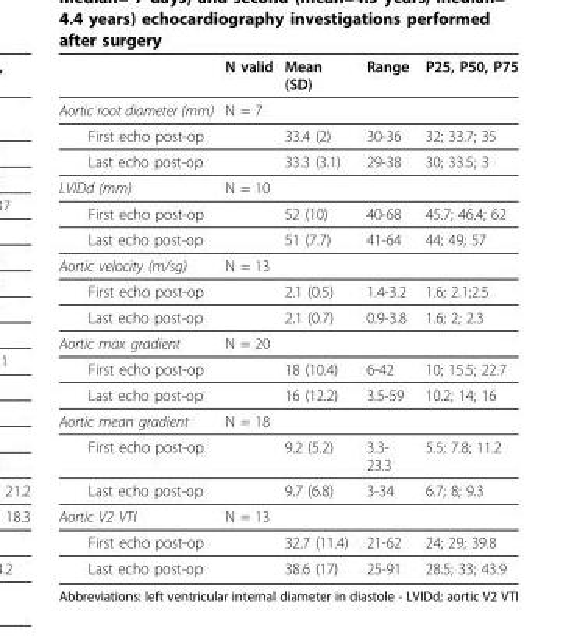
<table><thead><tr><td></td><td>N valid</td><td>Mean (SD)</td><td>Range</td><td>P25, P50, P75</td></tr></thead><tbody><tr><td>Aortic root diameter (mm)</td><td>N = 7</td><td></td><td></td><td></td></tr><tr><td>First echo post-op</td><td></td><td>33.4 (2)</td><td>30-36</td><td>32; 33.7; 35</td></tr><tr><td>Last echo post-op</td><td></td><td>33.3 (3.1)</td><td>29-38</td><td>30; 33.5; 3</td></tr><tr><td>LVIDd (mm)</td><td>N = 10</td><td></td><td></td><td></td></tr><tr><td>First echo post-op</td><td></td><td>52 (10)</td><td>40-68</td><td>45.7; 46.4; 62</td></tr><tr><td>Last echo post-op</td><td></td><td>51 (7.7)</td><td>41-64</td><td>44; 49; 57</td></tr><tr><td>Aortic velocity (m/sg)</td><td>N = 13</td><td></td><td></td><td></td></tr><tr><td>First echo post-op</td><td></td><td>2.1 (0.5)</td><td>1.4-3.2</td><td>1.6; 2.1;2.5</td></tr><tr><td>Last echo post-op</td><td></td><td>2.1 (0.7)</td><td>0.9-3.8</td><td>1.6; 2; 2.3</td></tr><tr><td>Aortic max gradient</td><td>N = 20</td><td></td><td></td><td></td></tr><tr><td>First echo post-op</td><td></td><td>18 (10.4)</td><td>6-42</td><td>10; 15.5; 22.7</td></tr><tr><td>Last echo post-op</td><td></td><td>16 (12.2)</td><td>3.5-59</td><td>10.2; 14; 16</td></tr><tr><td>Aortic mean gradient</td><td>N = 18</td><td></td><td></td><td></td></tr><tr><td>First echo post-op</td><td></td><td>9.2 (5.2)</td><td>3.3- 23.3</td><td>5.5; 7.8; 11.2</td></tr><tr><td>Last echo post-op</td><td></td><td>9.7 (6.8)</td><td>3-34</td><td>6.7; 8; 9.3</td></tr><tr><td>Aortic V2 VTI</td><td>N = 13</td><td></td><td></td><td></td></tr><tr><td>First echo post-op</td><td></td><td>32.7 (11.4)</td><td>21-62</td><td>24; 29; 39.8</td></tr><tr><td>Last echo post-op</td><td></td><td>38.6 (17)</td><td>25-91</td><td>28.5; 33; 43.9</td></tr></tbody></table>